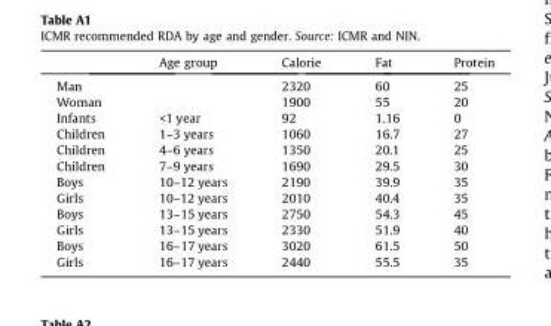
<table><thead><tr><td></td><td>Age group</td><td>Calorie</td><td>Fat</td><td>Protein</td></tr></thead><tbody><tr><td>Man</td><td></td><td>2320</td><td>60</td><td>25</td></tr><tr><td>Woman</td><td></td><td>1900</td><td>55</td><td>20</td></tr><tr><td>Infants</td><td>&lt;1 year</td><td>92</td><td>1.16</td><td>0</td></tr><tr><td>Children</td><td>1–3 years</td><td>1060</td><td>16.7</td><td>27</td></tr><tr><td>Children</td><td>4–6 years</td><td>1350</td><td>20.1</td><td>25</td></tr><tr><td>Children</td><td>7–9 years</td><td>1690</td><td>29.5</td><td>30</td></tr><tr><td>Boys</td><td>10–12 years</td><td>2190</td><td>39.9</td><td>35</td></tr><tr><td>Girls</td><td>10–12 years</td><td>2010</td><td>40.4</td><td>35</td></tr><tr><td>Boys</td><td>13–15 years</td><td>2750</td><td>54.3</td><td>45</td></tr><tr><td>Girls</td><td>13–15 years</td><td>2330</td><td>51.9</td><td>40</td></tr><tr><td>Boys</td><td>16–17 years</td><td>3020</td><td>61.5</td><td>50</td></tr><tr><td>Girls</td><td>16–17 years</td><td>2440</td><td>55.5</td><td>35</td></tr></tbody></table>